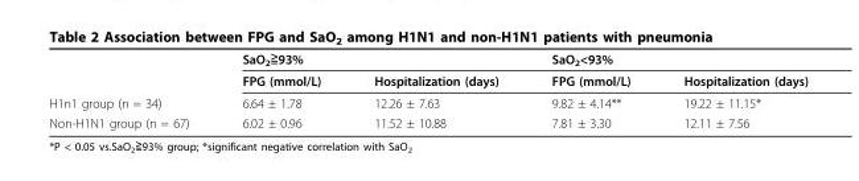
<table><thead><tr><td rowspan="2"></td><td colspan="2">SaO<sub>2</sub>≧93%</td><td colspan="2">SaO<sub>2</sub>&lt;93%</td></tr><tr><td>FPG (mmol/L)</td><td>Hospitalization (days)</td><td>FPG (mmol/L)</td><td>Hospitalization (days)</td></tr></thead><tbody><tr><td>H1n1 group (n = 34)</td><td>6.64 ± 1.78</td><td>12.26 ± 7.63</td><td>9.82 ± 4.14**</td><td>19.22 ± 11.15*</td></tr><tr><td>Non-H1N1 group (n = 67)</td><td>6.02 ± 0.96</td><td>11.52 ± 10.88</td><td>7.81 ± 3.30</td><td>12.11 ± 7.56</td></tr></tbody></table>